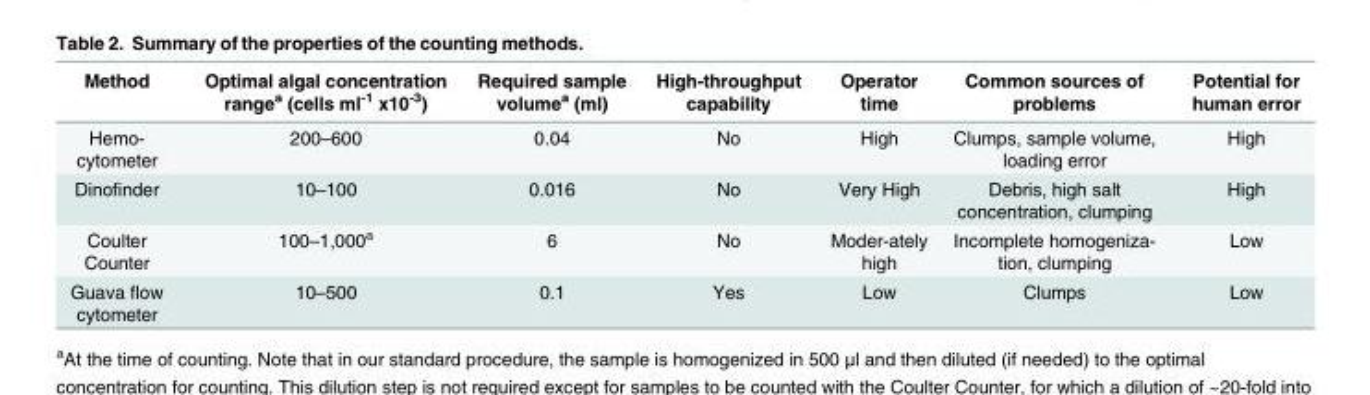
<table><thead><tr><td>Method</td><td>Optimal algal concentration range<sup>a</sup> (cells ml<sup>-1</sup> x10<sup>-3</sup>)</td><td>Required sample volume<sup>a</sup> (ml)</td><td>High-throughput capability</td><td>Operator time</td><td>Common sources of problems</td><td>Potential for human error</td></tr></thead><tbody><tr><td>Hemo- cytometer</td><td>200–600</td><td>0.04</td><td>No</td><td>High</td><td>Clumps, sample volume, loading error</td><td>High</td></tr><tr><td>Dinofinder</td><td>10–100</td><td>0.016</td><td>No</td><td>Very High</td><td>Debris, high salt concentration, clumping</td><td>High</td></tr><tr><td>Coulter Counter</td><td>100–1,000<sup>a</sup></td><td>6</td><td>No</td><td>Moder-ately high</td><td>Incomplete homogeniza- tion, clumping</td><td>Low</td></tr><tr><td>Guava flow cytometer</td><td>10–500</td><td>0.1</td><td>Yes</td><td>Low</td><td>Clumps</td><td>Low</td></tr></tbody></table>